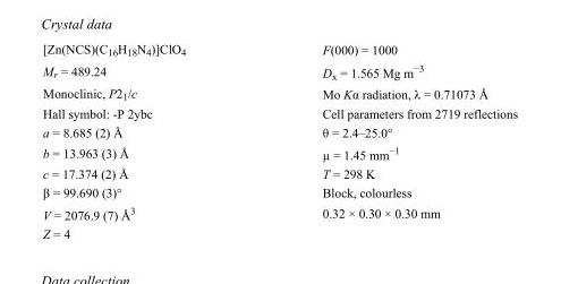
<table><tbody><tr><td>[Zn(NCS)(C<sub>16</sub>H<sub>18</sub>N<sub>4</sub>)]ClO<sub>4</sub></td><td>F(000) = 1000</td></tr><tr><td>M<sub>r</sub> = 489.24</td><td>D<sub>x</sub> = 1.565 Mg m<sup>−3</sup></td></tr><tr><td>Monoclinic, P2<sub>1</sub>/c</td><td>Mo Kα radiation, λ = 0.71073 Å</td></tr><tr><td>Hall symbol: -P 2ybc</td><td>Cell parameters from 2719 reflections</td></tr><tr><td>a = 8.685 (2) Å</td><td>θ = 2.4–25.0°</td></tr><tr><td>b = 13.963 (3) Å</td><td>µ = 1.45 mm<sup>−1</sup></td></tr><tr><td>c = 17.374 (2) Å</td><td>T = 298 K</td></tr><tr><td>β = 99.690 (3)°</td><td>Block, colourless</td></tr><tr><td>V = 2076.9 (7) Å<sup>3</sup></td><td>0.32 × 0.30 × 0.30 mm</td></tr><tr><td>Z = 4</td><td></td></tr></tbody></table>